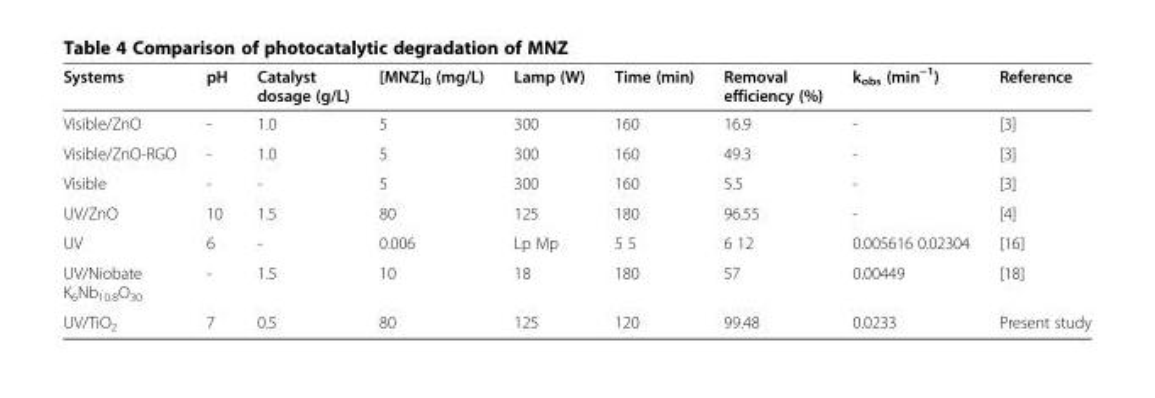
<table><thead><tr><td>Systems</td><td>pH</td><td>Catalyst dosage (g/L)</td><td>[MNZ]<sub>0</sub> (mg/L)</td><td>Lamp (W)</td><td>Time (min)</td><td>Removal efficiency (%)</td><td>k<sub>obs</sub> (min<sup>−1</sup>)</td><td>Reference</td></tr></thead><tbody><tr><td>Visible/ZnO</td><td>-</td><td>1.0</td><td>5</td><td>300</td><td>160</td><td>16.9</td><td>-</td><td>[3]</td></tr><tr><td>Visible/ZnO-RGO</td><td>-</td><td>1.0</td><td>5</td><td>300</td><td>160</td><td>49.3</td><td>-</td><td>[3]</td></tr><tr><td>Visible</td><td>-</td><td>-</td><td>5</td><td>300</td><td>160</td><td>5.5</td><td>-</td><td>[3]</td></tr><tr><td>UV/ZnO</td><td>10</td><td>1.5</td><td>80</td><td>125</td><td>180</td><td>96.55</td><td>-</td><td>[4]</td></tr><tr><td>UV</td><td>6</td><td>-</td><td>0.006</td><td>Lp Mp</td><td>5 5</td><td>6 12</td><td>0.005616 0.02304</td><td>[16]</td></tr><tr><td>UV/Niobate K<sub>6</sub>Nb<sub>10.8</sub>O<sub>30</sub></td><td>-</td><td>1.5</td><td>10</td><td>18</td><td>180</td><td>57</td><td>0.00449</td><td>[18]</td></tr><tr><td>UV/TiO<sub>2</sub></td><td>7</td><td>0.5</td><td>80</td><td>125</td><td>120</td><td>99.48</td><td>0.0233</td><td>Present study</td></tr></tbody></table>